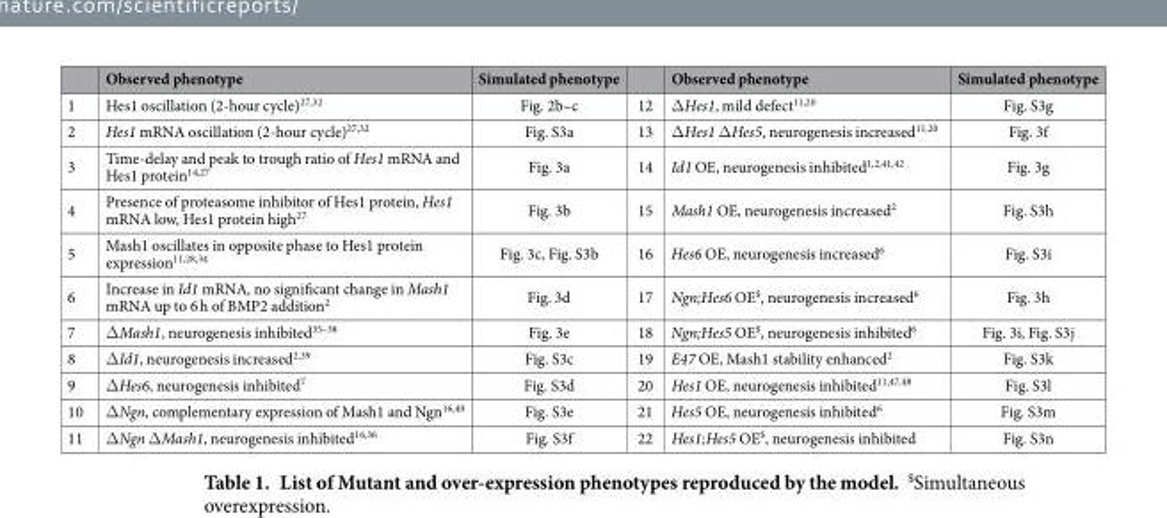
<table><thead><tr><td></td><td>Observed phenotype</td><td>Simulated phenotype</td><td></td><td>Observed phenotype</td><td>Simulated phenotype</td></tr></thead><tbody><tr><td>1</td><td>Hes1 oscillation (2-hour cycle)<sup>27</sup>,<sup>32</sup></td><td>Fig. 2b–c</td><td>12</td><td>Δ Hes1, mild defect<sup>11</sup>,<sup>20</sup></td><td>Fig. S3g</td></tr><tr><td>2</td><td>Hes1 mRNA oscillation (2-hour cycle)<sup>27</sup>,<sup>32</sup></td><td>Fig. S3a</td><td>13</td><td>Δ Hes1 Δ Hes5, neurogenesis increased<sup>11</sup>,<sup>20</sup></td><td>Fig. 3f</td></tr><tr><td>3</td><td>Time-delay and peak to trough ratio of Hes1 mRNA and Hes1 protein<sup>14</sup>,<sup>27</sup></td><td>Fig. 3a</td><td>14</td><td>Id1 OE, neurogenesis inhibited<sup>1</sup>,<sup>2</sup>,<sup>41</sup>,<sup>42</sup></td><td>Fig. 3g</td></tr><tr><td>4</td><td>Presence of proteasome inhibitor of Hes1 protein, Hes1 mRNA low, Hes1 protein high<sup>27</sup></td><td>Fig. 3b</td><td>15</td><td>Mash1 OE, neurogenesis increased<sup>2</sup></td><td>Fig. S3h</td></tr><tr><td>5</td><td>Mash1 oscillates in opposite phase to Hes1 protein expression<sup>11</sup>,<sup>28</sup>,<sup>34</sup></td><td>Fig. 3c, Fig. S3b</td><td>16</td><td>Hes6 OE, neurogenesis increased<sup>6</sup></td><td>Fig. S3i</td></tr><tr><td>6</td><td>Increase in Id1 mRNA, no significant change in Mash1 mRNA up to 6 h of BMP2 addition<sup>2</sup></td><td>Fig. 3d</td><td>17</td><td>Ngn;Hes6 OE$, neurogenesis increased<sup>6</sup></td><td>Fig. 3h</td></tr><tr><td>7</td><td>Δ Mash1, neurogenesis inhibited35–38</td><td>Fig. 3e</td><td>18</td><td>Ngn;Hes5 OE$, neurogenesis inhibited<sup>6</sup></td><td>Fig. 3i, Fig. S3j</td></tr><tr><td>8</td><td>Δ Id1, neurogenesis increased<sup>2</sup>,<sup>39</sup></td><td>Fig. S3c</td><td>19</td><td>E47 OE, Mash1 stability enhanced<sup>2</sup></td><td>Fig. S3k</td></tr><tr><td>9</td><td>Δ Hes6, neurogenesis inhibited<sup>7</sup></td><td>Fig. S3d</td><td>20</td><td>Hes1 OE, neurogenesis inhibited<sup>11</sup>,<sup>47</sup>,<sup>48</sup></td><td>Fig. S3l</td></tr><tr><td>10</td><td>Δ Ngn, complementary expression of Mash1 and Ngn<sup>16</sup>,<sup>40</sup></td><td>Fig. S3e</td><td>21</td><td>Hes5 OE, neurogenesis inhibited<sup>6</sup></td><td>Fig. S3m</td></tr><tr><td>11</td><td>Δ Ngn Δ Mash1, neurogenesis inhibited<sup>16</sup>,<sup>36</sup></td><td>Fig. S3f</td><td>22</td><td>Hes1;Hes5 OE$, neurogenesis inhibited</td><td>Fig. S3n</td></tr></tbody></table>